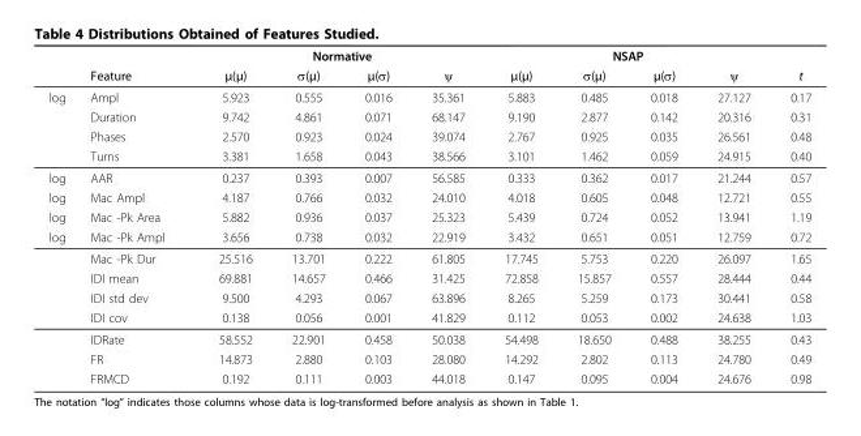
<table><thead><tr><td rowspan="2"></td><td rowspan="2">Feature</td><td colspan="4">Normative</td><td colspan="4">NSAP</td><td rowspan="2">t</td></tr><tr><td>μ(μ)</td><td>σ(μ)</td><td>μ(σ)</td><td>ψ</td><td>μ(μ)</td><td>σ(μ)</td><td>μ(σ)</td><td>ψ</td></tr></thead><tbody><tr><td rowspan="4">log</td><td>Ampl</td><td>5.923</td><td>0.555</td><td>0.016</td><td>35.361</td><td>5.883</td><td>0.485</td><td>0.018</td><td>27.127</td><td>0.17</td></tr><tr><td>Duration</td><td>9.742</td><td>4.861</td><td>0.071</td><td>68.147</td><td>9.190</td><td>2.877</td><td>0.142</td><td>20.316</td><td>0.31</td></tr><tr><td>Phases</td><td>2.570</td><td>0.923</td><td>0.024</td><td>39.074</td><td>2.767</td><td>0.925</td><td>0.035</td><td>26.561</td><td>0.48</td></tr><tr><td>Turns</td><td>3.381</td><td>1.658</td><td>0.043</td><td>38.566</td><td>3.101</td><td>1.462</td><td>0.059</td><td>24.915</td><td>0.40</td></tr><tr><td>log</td><td>AAR</td><td>0.237</td><td>0.393</td><td>0.007</td><td>56.585</td><td>0.333</td><td>0.362</td><td>0.017</td><td>21.244</td><td>0.57</td></tr><tr><td>log</td><td>Mac Ampl</td><td>4.187</td><td>0.766</td><td>0.032</td><td>24.010</td><td>4.018</td><td>0.605</td><td>0.048</td><td>12.721</td><td>0.55</td></tr><tr><td>log</td><td>Mac -Pk Area</td><td>5.882</td><td>0.936</td><td>0.037</td><td>25.323</td><td>5.439</td><td>0.724</td><td>0.052</td><td>13.941</td><td>1.19</td></tr><tr><td rowspan="8">log</td><td>Mac -Pk Ampl</td><td>3.656</td><td>0.738</td><td>0.032</td><td>22.919</td><td>3.432</td><td>0.651</td><td>0.051</td><td>12.759</td><td>0.72</td></tr><tr><td>Mac -Pk Dur</td><td>25.516</td><td>13.701</td><td>0.222</td><td>61.805</td><td>17.745</td><td>5.753</td><td>0.220</td><td>26.097</td><td>1.65</td></tr><tr><td>IDI mean</td><td>69.881</td><td>14.657</td><td>0.466</td><td>31.425</td><td>72.858</td><td>15.857</td><td>0.557</td><td>28.444</td><td>0.44</td></tr><tr><td>IDI std dev</td><td>9.500</td><td>4.293</td><td>0.067</td><td>63.896</td><td>8.265</td><td>5.259</td><td>0.173</td><td>30.441</td><td>0.58</td></tr><tr><td>IDI cov</td><td>0.138</td><td>0.056</td><td>0.001</td><td>41.829</td><td>0.112</td><td>0.053</td><td>0.002</td><td>24.638</td><td>1.03</td></tr><tr><td>IDRate</td><td>58.552</td><td>22.901</td><td>0.458</td><td>50.038</td><td>54.498</td><td>18.650</td><td>0.488</td><td>38.255</td><td>0.43</td></tr><tr><td>FR</td><td>14.873</td><td>2.880</td><td>0.103</td><td>28.080</td><td>14.292</td><td>2.802</td><td>0.113</td><td>24.780</td><td>0.49</td></tr><tr><td>FRMCD</td><td>0.192</td><td>0.111</td><td>0.003</td><td>44.018</td><td>0.147</td><td>0.095</td><td>0.004</td><td>24.676</td><td>0.98</td></tr></tbody></table>